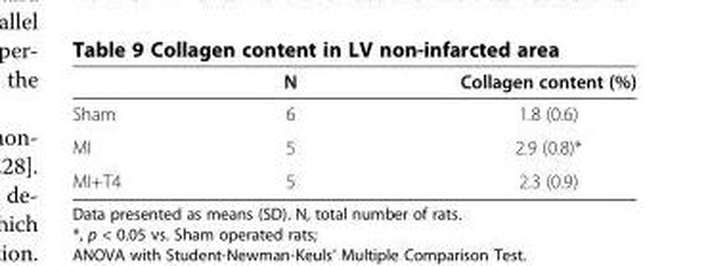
<table><thead><tr><td></td><td>N</td><td>Collagen content (%)</td></tr></thead><tbody><tr><td>Sham</td><td>6</td><td>1.8 (0.6)</td></tr><tr><td>MI</td><td>5</td><td>2.9 (0.8)*</td></tr><tr><td>MI+T4</td><td>5</td><td>2.3 (0.9)</td></tr></tbody></table>